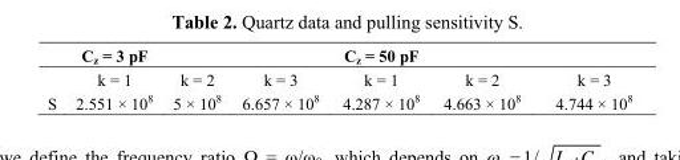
<table><thead><tr><td rowspan="2"></td><td colspan="3">C<sub>z</sub> = 3 pF</td><td colspan="3">C<sub>z</sub> = 50 pF</td></tr><tr><td>k = 1</td><td>k = 2</td><td>k = 3</td><td>k = 1</td><td>k = 2</td><td>k = 3</td></tr></thead><tbody><tr><td>S</td><td>2.551 × 10<sup>8</sup></td><td>5 × 10<sup>8</sup></td><td>6.657 × 10<sup>8</sup></td><td>4.287 × 10<sup>8</sup></td><td>4.663 × 10<sup>8</sup></td><td>4.744 × 10<sup>8</sup></td></tr></tbody></table>